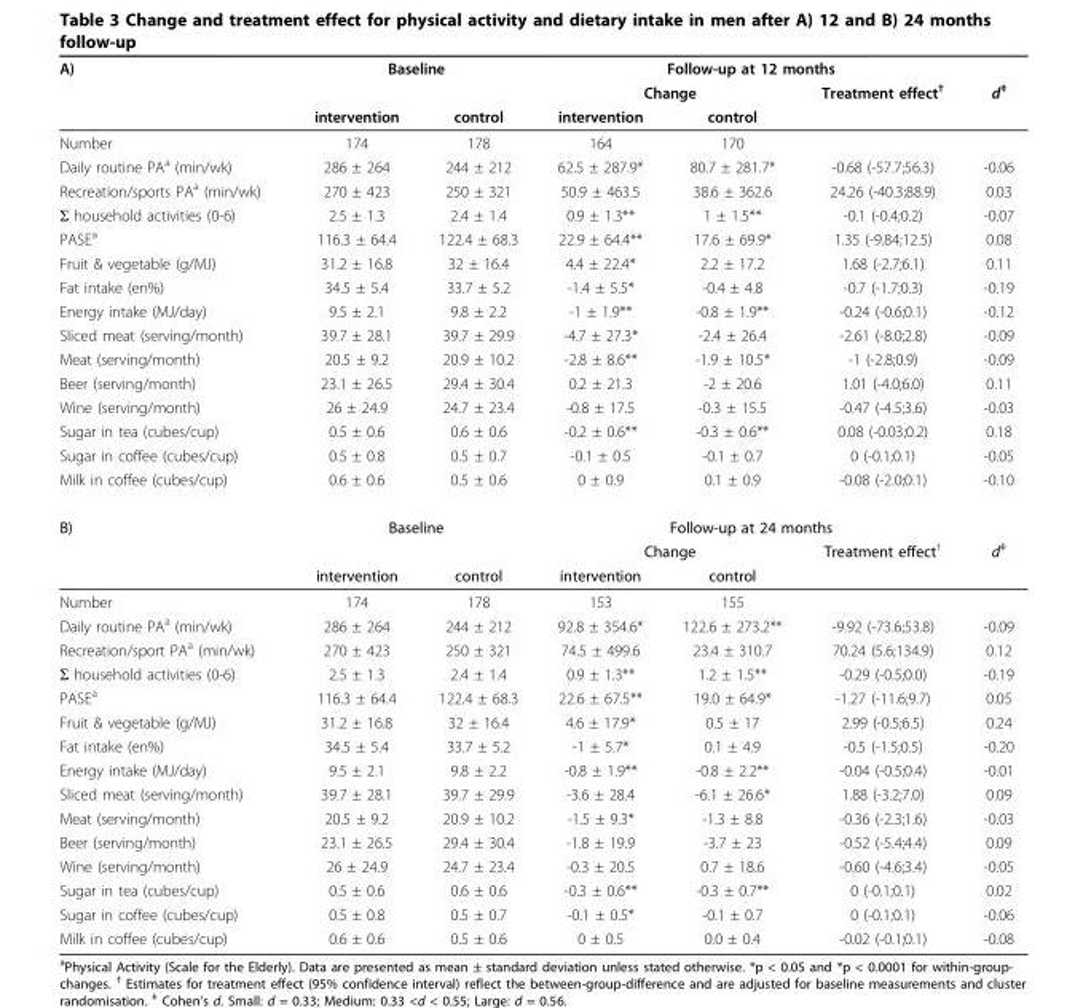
<table><thead><tr><td rowspan="3">A)</td><td colspan="2">Baseline</td><td colspan="3">Follow-up at 12 months</td><td rowspan="3">d‡</td></tr><tr><td rowspan="2">intervention</td><td rowspan="2">control</td><td colspan="2">Change</td><td rowspan="2">Treatment effect†</td></tr><tr><td>intervention</td><td>control</td></tr></thead><tbody><tr><td>Number</td><td>174</td><td>178</td><td>164</td><td>170</td><td></td><td></td></tr><tr><td>Daily routine PA<sup>a</sup> (min/wk)</td><td>286 ± 264</td><td>244 ± 212</td><td>62.5 ± 287.9*</td><td>80.7 ± 281.7*</td><td>-0.68 (-57.7;56.3)</td><td>-0.06</td></tr><tr><td>Recreation/sports PA<sup>a</sup> (min/wk)</td><td>270 ± 423</td><td>250 ± 321</td><td>50.9 ± 463.5</td><td>38.6 ± 362.6</td><td>24.26 (-40.3;88.9)</td><td>0.03</td></tr><tr><td>Σ household activities (0-6)</td><td>2.5 ± 1.3</td><td>2.4 ± 1.4</td><td>0.9 ± 1.3**</td><td>1 ± 1.5**</td><td>-0.1 (-0.4;0.2)</td><td>-0.07</td></tr><tr><td>PASE<sup>a</sup></td><td>116.3 ± 64.4</td><td>122.4 ± 68.3</td><td>22.9 ± 64.4**</td><td>17.6 ± 69.9*</td><td>1.35 (-9.84;12.5)</td><td>0.08</td></tr><tr><td>Fruit &amp; vegetable (g/MJ)</td><td>31.2 ± 16.8</td><td>32 ± 16.4</td><td>4.4 ± 22.4*</td><td>2.2 ± 17.2</td><td>1.68 (-2.7;6.1)</td><td>0.11</td></tr><tr><td>Fat intake (en%)</td><td>34.5 ± 5.4</td><td>33.7 ± 5.2</td><td>-1.4 ± 5.5*</td><td>-0.4 ± 4.8</td><td>-0.7 (-1.7;0.3)</td><td>-0.19</td></tr><tr><td>Energy intake (MJ/day)</td><td>9.5 ± 2.1</td><td>9.8 ± 2.2</td><td>-1 ± 1.9**</td><td>-0.8 ± 1.9**</td><td>-0.24 (-0.6;0.1)</td><td>-0.12</td></tr><tr><td>Sliced meat (serving/month)</td><td>39.7 ± 28.1</td><td>39.7 ± 29.9</td><td>-4.7 ± 27.3*</td><td>-2.4 ± 26.4</td><td>-2.61 (-8.0;2.8)</td><td>-0.09</td></tr><tr><td>Meat (serving/month)</td><td>20.5 ± 9.2</td><td>20.9 ± 10.2</td><td>-2.8 ± 8.6**</td><td>-1.9 ± 10.5*</td><td>-1 (-2.8;0.9)</td><td>-0.09</td></tr><tr><td>Beer (serving/month)</td><td>23.1 ± 26.5</td><td>29.4 ± 30.4</td><td>0.2 ± 21.3</td><td>-2 ± 20.6</td><td>1.01 (-4.0;6.0)</td><td>0.11</td></tr><tr><td>Wine (serving/month)</td><td>26 ± 24.9</td><td>24.7 ± 23.4</td><td>-0.8 ± 17.5</td><td>-0.3 ± 15.5</td><td>-0.47 (-4.5;3.6)</td><td>-0.03</td></tr><tr><td>Sugar in tea (cubes/cup)</td><td>0.5 ± 0.6</td><td>0.6 ± 0.6</td><td>-0.2 ± 0.6**</td><td>-0.3 ± 0.6**</td><td>0.08 (-0.03;0.2)</td><td>0.18</td></tr><tr><td>Sugar in coffee (cubes/cup)</td><td>0.5 ± 0.8</td><td>0.5 ± 0.7</td><td>-0.1 ± 0.5</td><td>-0.1 ± 0.7</td><td>0 (-0.1;0.1)</td><td>-0.05</td></tr><tr><td>Milk in coffee (cubes/cup)</td><td>0.6 ± 0.6</td><td>0.5 ± 0.6</td><td>0 ± 0.9</td><td>0.1 ± 0.9</td><td>-0.08 (-2.0;0.1)</td><td>-0.10</td></tr><tr><td rowspan="3">B)</td><td colspan="2">Baseline</td><td colspan="3">Follow-up at 24 months</td><td></td></tr><tr><td></td><td></td><td colspan="2">Change</td><td>Treatment effect<sup>†</sup></td><td>d<sup>‡</sup></td></tr><tr><td>intervention</td><td>control</td><td>intervention</td><td>control</td><td></td><td></td></tr><tr><td>Number</td><td>174</td><td>178</td><td>153</td><td>155</td><td></td><td></td></tr><tr><td>Daily routine PA<sup>a</sup> (min/wk)</td><td>286 ± 264</td><td>244 ± 212</td><td>92.8 ± 354.6*</td><td>122.6 ± 273.2**</td><td>-9.92 (-73.6;53.8)</td><td>-0.09</td></tr><tr><td>Recreation/sport PA<sup>a</sup> (min/wk)</td><td>270 ± 423</td><td>250 ± 321</td><td>74.5 ± 499.6</td><td>23.4 ± 310.7</td><td>70.24 (5.6;134.9)</td><td>0.12</td></tr><tr><td>Σ household activities (0-6)</td><td>2.5 ± 1.3</td><td>2.4 ± 1.4</td><td>0.9 ± 1.3**</td><td>1.2 ± 1.5**</td><td>-0.29 (-0.5;0.0)</td><td>-0.19</td></tr><tr><td>PASE<sup>a</sup></td><td>116.3 ± 64.4</td><td>122.4 ± 68.3</td><td>22.6 ± 67.5**</td><td>19.0 ± 64.9*</td><td>-1.27 (-11.6;9.7)</td><td>0.05</td></tr><tr><td>Fruit &amp; vegetable (g/MJ)</td><td>31.2 ± 16.8</td><td>32 ± 16.4</td><td>4.6 ± 17.9*</td><td>0.5 ± 17</td><td>2.99 (-0.5;6.5)</td><td>0.24</td></tr><tr><td>Fat intake (en%)</td><td>34.5 ± 5.4</td><td>33.7 ± 5.2</td><td>-1 ± 5.7*</td><td>0.1 ± 4.9</td><td>-0.5 (-1.5;0.5)</td><td>-0.20</td></tr><tr><td>Energy intake (MJ/day)</td><td>9.5 ± 2.1</td><td>9.8 ± 2.2</td><td>-0.8 ± 1.9**</td><td>-0.8 ± 2.2**</td><td>-0.04 (-0.5;0.4)</td><td>-0.01</td></tr><tr><td>Sliced meat (serving/month)</td><td>39.7 ± 28.1</td><td>39.7 ± 29.9</td><td>-3.6 ± 28.4</td><td>-6.1 ± 26.6*</td><td>1.88 (-3.2;7.0)</td><td>0.09</td></tr><tr><td>Meat (serving/month)</td><td>20.5 ± 9.2</td><td>20.9 ± 10.2</td><td>-1.5 ± 9.3*</td><td>-1.3 ± 8.8</td><td>-0.36 (-2.3;1.6)</td><td>-0.03</td></tr><tr><td>Beer (serving/month)</td><td>23.1 ± 26.5</td><td>29.4 ± 30.4</td><td>-1.8 ± 19.9</td><td>-3.7 ± 23</td><td>-0.52 (-5.4;4.4)</td><td>0.09</td></tr><tr><td>Wine (serving/month)</td><td>26 ± 24.9</td><td>24.7 ± 23.4</td><td>-0.3 ± 20.5</td><td>0.7 ± 18.6</td><td>-0.60 (-4.6;3.4)</td><td>-0.05</td></tr><tr><td>Sugar in tea (cubes/cup)</td><td>0.5 ± 0.6</td><td>0.6 ± 0.6</td><td>-0.3 ± 0.6**</td><td>-0.3 ± 0.7**</td><td>0 (-0.1;0.1)</td><td>0.02</td></tr><tr><td>Sugar in coffee (cubes/cup)</td><td>0.5 ± 0.8</td><td>0.5 ± 0.7</td><td>-0.1 ± 0.5*</td><td>-0.1 ± 0.7</td><td>0 (-0.1;0.1)</td><td>-0.06</td></tr><tr><td>Milk in coffee (cubes/cup)</td><td>0.6 ± 0.6</td><td>0.5 ± 0.6</td><td>0 ± 0.5</td><td>0.0 ± 0.4</td><td>-0.02 (-0.1;0.1)</td><td>-0.08</td></tr></tbody></table>